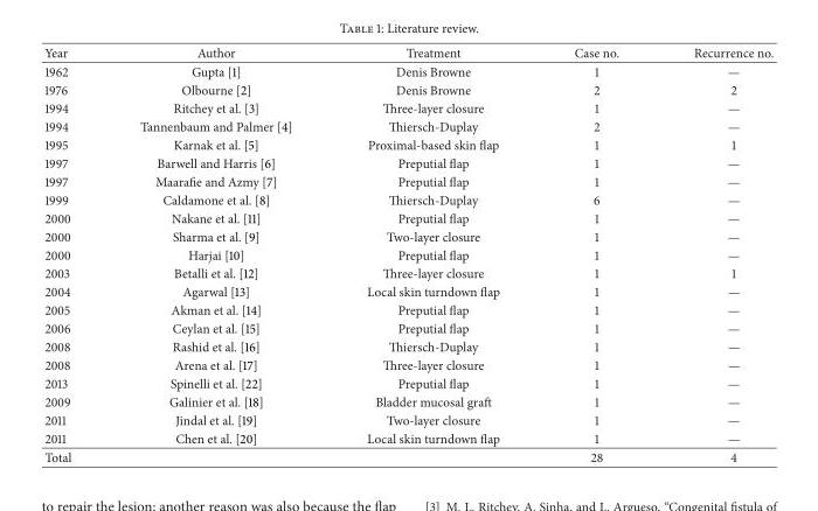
<table><thead><tr><td>Year</td><td>Author</td><td>Treatment</td><td>Case no.</td><td>Recurrence no.</td></tr></thead><tbody><tr><td>1962</td><td>Gupta [1]</td><td>Denis Browne</td><td>1</td><td>—</td></tr><tr><td>1976</td><td>Olbourne [2]</td><td>Denis Browne</td><td>2</td><td>2</td></tr><tr><td>1994</td><td>Ritchey et al. [3]</td><td>Three-layer closure</td><td>1</td><td>—</td></tr><tr><td>1994</td><td>Tannenbaum and Palmer [4]</td><td>Thiersch-Duplay</td><td>2</td><td>—</td></tr><tr><td>1995</td><td>Karnak et al. [5]</td><td>Proximal-based skin flap</td><td>1</td><td>1</td></tr><tr><td>1997</td><td>Barwell and Harris [6]</td><td>Preputial flap</td><td>1</td><td>—</td></tr><tr><td>1997</td><td>Maarafie and Azmy [7]</td><td>Preputial flap</td><td>1</td><td>—</td></tr><tr><td>1999</td><td>Caldamone et al. [8]</td><td>Thiersch-Duplay</td><td>6</td><td>—</td></tr><tr><td>2000</td><td>Nakane et al. [11]</td><td>Preputial flap</td><td>1</td><td>—</td></tr><tr><td>2000</td><td>Sharma et al. [9]</td><td>Two-layer closure</td><td>1</td><td>—</td></tr><tr><td>2000</td><td>Harjai [10]</td><td>Preputial flap</td><td>1</td><td>—</td></tr><tr><td>2003</td><td>Betalli et al. [12]</td><td>Three-layer closure</td><td>1</td><td>1</td></tr><tr><td>2004</td><td>Agarwal [13]</td><td>Local skin turndown flap</td><td>1</td><td>—</td></tr><tr><td>2005</td><td>Akman et al. [14]</td><td>Preputial flap</td><td>1</td><td>—</td></tr><tr><td>2006</td><td>Ceylan et al. [15]</td><td>Preputial flap</td><td>1</td><td>—</td></tr><tr><td>2008</td><td>Rashid et al. [16]</td><td>Thiersch-Duplay</td><td>1</td><td>—</td></tr><tr><td>2008</td><td>Arena et al. [17]</td><td>Three-layer closure</td><td>1</td><td>—</td></tr><tr><td>2013</td><td>Spinelli et al. [22]</td><td>Preputial flap</td><td>1</td><td>—</td></tr><tr><td>2009</td><td>Galinier et al. [18]</td><td>Bladder mucosal graft</td><td>1</td><td>—</td></tr><tr><td>2011</td><td>Jindal et al. [19]</td><td>Two-layer closure</td><td>1</td><td>—</td></tr><tr><td>2011</td><td>Chen et al. [20]</td><td>Local skin turndown flap</td><td>1</td><td>—</td></tr><tr><td>Total</td><td></td><td></td><td>28</td><td>4</td></tr></tbody></table>